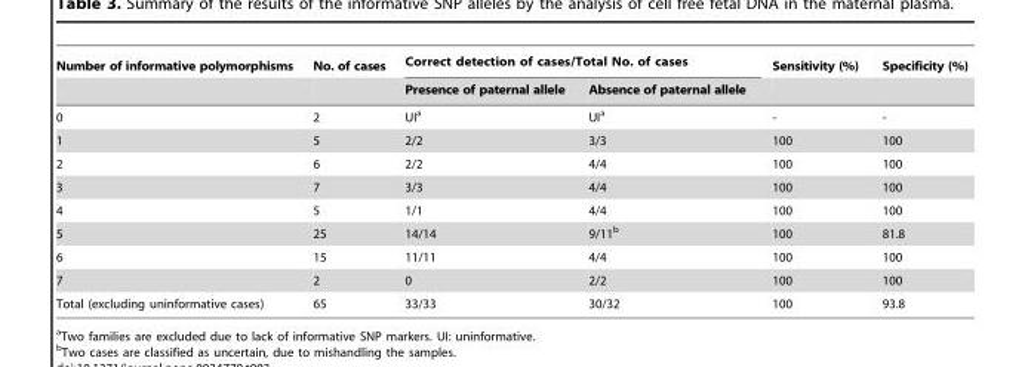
<table><thead><tr><td rowspan="2">Number of informative polymorphisms</td><td rowspan="2">No. of cases</td><td colspan="2">Correct detection of cases/Total No. of cases</td><td rowspan="2">Sensitivity (%)</td><td rowspan="2">Specificity (%)</td></tr><tr><td>Presence of paternal allele</td><td>Absence of paternal allele</td></tr></thead><tbody><tr><td>0</td><td>2</td><td>UI<sup>a</sup></td><td>UI<sup>a</sup></td><td>-</td><td>-</td></tr><tr><td>1</td><td>5</td><td>2/2</td><td>3/3</td><td>100</td><td>100</td></tr><tr><td>2</td><td>6</td><td>2/2</td><td>4/4</td><td>100</td><td>100</td></tr><tr><td>3</td><td>7</td><td>3/3</td><td>4/4</td><td>100</td><td>100</td></tr><tr><td>4</td><td>5</td><td>1/1</td><td>4/4</td><td>100</td><td>100</td></tr><tr><td>5</td><td>25</td><td>14/14</td><td>9/11<sup>b</sup></td><td>100</td><td>81.8</td></tr><tr><td>6</td><td>15</td><td>11/11</td><td>4/4</td><td>100</td><td>100</td></tr><tr><td>7</td><td>2</td><td>0</td><td>2/2</td><td>100</td><td>100</td></tr><tr><td>Total (excluding uninformative cases)</td><td>65</td><td>33/33</td><td>30/32</td><td>100</td><td>93.8</td></tr></tbody></table>